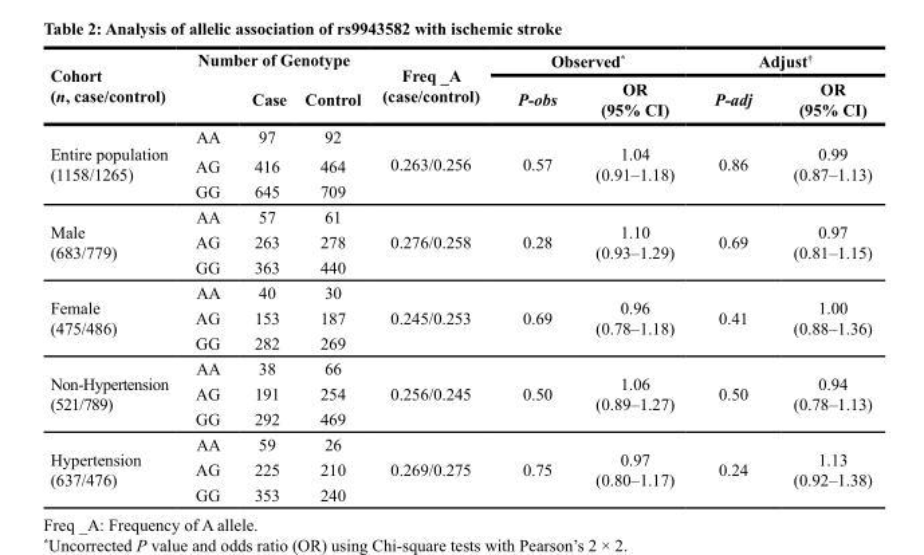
<table><thead><tr><td rowspan="2">Cohort (n, case/control)</td><td colspan="3">Number of Genotype</td><td rowspan="2">Freq _A (case/control)</td><td colspan="2">Observed*</td><td colspan="2">Adjust<sup>†</sup></td></tr><tr><td></td><td>Case</td><td>Control</td><td>P-obs</td><td>OR (95% CI)</td><td>P-adj</td><td>OR (95% CI)</td></tr></thead><tbody><tr><td rowspan="3">Entire population (1158/1265)</td><td>AA</td><td>97</td><td>92</td><td rowspan="3">0.263/0.256</td><td rowspan="3">0.57</td><td rowspan="3">1.04 (0.91–1.18)</td><td rowspan="3">0.86</td><td rowspan="3">0.99 (0.87–1.13)</td></tr><tr><td>AG</td><td>416</td><td>464</td></tr><tr><td>GG</td><td>645</td><td>709</td></tr><tr><td rowspan="3">Male (683/779)</td><td>AA</td><td>57</td><td>61</td><td rowspan="3">0.276/0.258</td><td rowspan="3">0.28</td><td rowspan="3">1.10 (0.93–1.29)</td><td rowspan="3">0.69</td><td rowspan="3">0.97 (0.81–1.15)</td></tr><tr><td>AG</td><td>263</td><td>278</td></tr><tr><td>GG</td><td>363</td><td>440</td></tr><tr><td rowspan="3">Female (475/486)</td><td>AA</td><td>40</td><td>30</td><td rowspan="3">0.245/0.253</td><td rowspan="3">0.69</td><td rowspan="3">0.96 (0.78–1.18)</td><td rowspan="3">0.41</td><td rowspan="3">1.00 (0.88–1.36)</td></tr><tr><td>AG</td><td>153</td><td>187</td></tr><tr><td>GG</td><td>282</td><td>269</td></tr><tr><td rowspan="3">Non-Hypertension (521/789)</td><td>AA</td><td>38</td><td>66</td><td rowspan="3">0.256/0.245</td><td rowspan="3">0.50</td><td rowspan="3">1.06 (0.89–1.27)</td><td rowspan="3">0.50</td><td rowspan="3">0.94 (0.78–1.13)</td></tr><tr><td>AG</td><td>191</td><td>254</td></tr><tr><td>GG</td><td>292</td><td>469</td></tr><tr><td rowspan="3">Hypertension (637/476)</td><td>AA</td><td>59</td><td>26</td><td rowspan="3">0.269/0.275</td><td rowspan="3">0.75</td><td rowspan="3">0.97 (0.80–1.17)</td><td rowspan="3">0.24</td><td rowspan="3">1.13 (0.92–1.38)</td></tr><tr><td>AG</td><td>225</td><td>210</td></tr><tr><td>GG</td><td>353</td><td>240</td></tr></tbody></table>